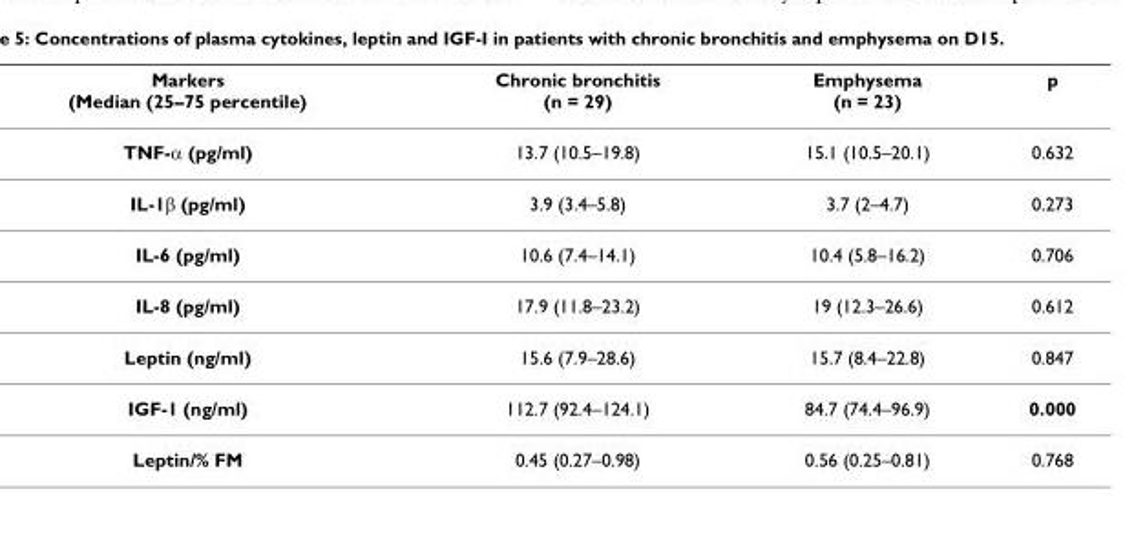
<table><thead><tr><td>Markers (Median (25–75 percentile)</td><td>Chronic bronchitis (n = 29)</td><td>Emphysema (n = 23)</td><td>p</td></tr></thead><tbody><tr><td>TNF-α (pg/ml)</td><td>13.7 (10.5–19.8)</td><td>15.1 (10.5–20.1)</td><td>0.632</td></tr><tr><td>IL-1β (pg/ml)</td><td>3.9 (3.4–5.8)</td><td>3.7 (2–4.7)</td><td>0.273</td></tr><tr><td>IL-6 (pg/ml)</td><td>10.6 (7.4–14.1)</td><td>10.4 (5.8–16.2)</td><td>0.706</td></tr><tr><td>IL-8 (pg/ml)</td><td>17.9 (11.8–23.2)</td><td>19 (12.3–26.6)</td><td>0.612</td></tr><tr><td>Leptin (ng/ml)</td><td>15.6 (7.9–28.6)</td><td>15.7 (8.4–22.8)</td><td>0.847</td></tr><tr><td>IGF-1 (ng/ml)</td><td>112.7 (92.4–124.1)</td><td>84.7 (74.4–96.9)</td><td>0.000</td></tr><tr><td>Leptin/% FM</td><td>0.45 (0.27–0.98)</td><td>0.56 (0.25–0.81)</td><td>0.768</td></tr></tbody></table>